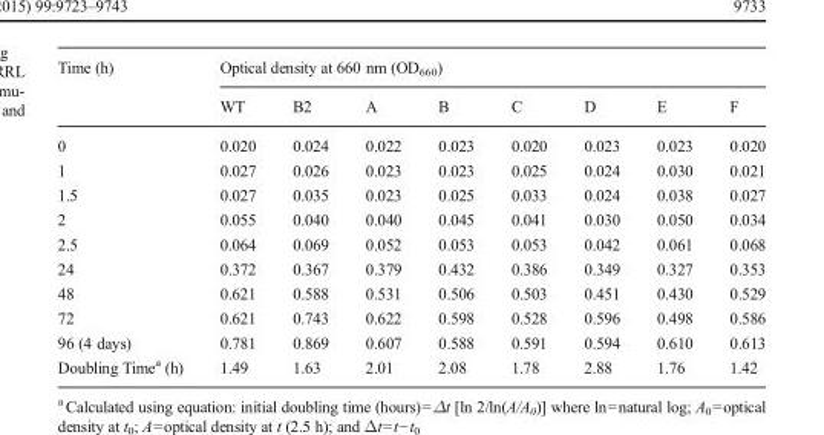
<table><thead><tr><td rowspan="2">Time (h)</td><td colspan="8">Optical density at 660 nm (OD<sub>660</sub>)</td></tr><tr><td>WT</td><td>B2</td><td>A</td><td>B</td><td>C</td><td>D</td><td>E</td><td>F</td></tr></thead><tbody><tr><td>0</td><td>0.020</td><td>0.024</td><td>0.022</td><td>0.023</td><td>0.020</td><td>0.023</td><td>0.023</td><td>0.020</td></tr><tr><td>1</td><td>0.027</td><td>0.026</td><td>0.023</td><td>0.023</td><td>0.025</td><td>0.024</td><td>0.030</td><td>0.021</td></tr><tr><td>1.5</td><td>0.027</td><td>0.035</td><td>0.023</td><td>0.025</td><td>0.033</td><td>0.024</td><td>0.038</td><td>0.027</td></tr><tr><td>2</td><td>0.055</td><td>0.040</td><td>0.040</td><td>0.045</td><td>0.041</td><td>0.030</td><td>0.050</td><td>0.034</td></tr><tr><td>2.5</td><td>0.064</td><td>0.069</td><td>0.052</td><td>0.053</td><td>0.053</td><td>0.042</td><td>0.061</td><td>0.068</td></tr><tr><td>24</td><td>0.372</td><td>0.367</td><td>0.379</td><td>0.432</td><td>0.386</td><td>0.349</td><td>0.327</td><td>0.353</td></tr><tr><td>48</td><td>0.621</td><td>0.588</td><td>0.531</td><td>0.506</td><td>0.503</td><td>0.451</td><td>0.430</td><td>0.529</td></tr><tr><td>72</td><td>0.621</td><td>0.743</td><td>0.622</td><td>0.598</td><td>0.528</td><td>0.596</td><td>0.498</td><td>0.586</td></tr><tr><td>96 (4 days)</td><td>0.781</td><td>0.869</td><td>0.607</td><td>0.588</td><td>0.591</td><td>0.594</td><td>0.610</td><td>0.613</td></tr><tr><td>Doubling Time<sup>a</sup> (h)</td><td>1.49</td><td>1.63</td><td>2.01</td><td>2.08</td><td>1.78</td><td>2.88</td><td>1.76</td><td>1.42</td></tr></tbody></table>